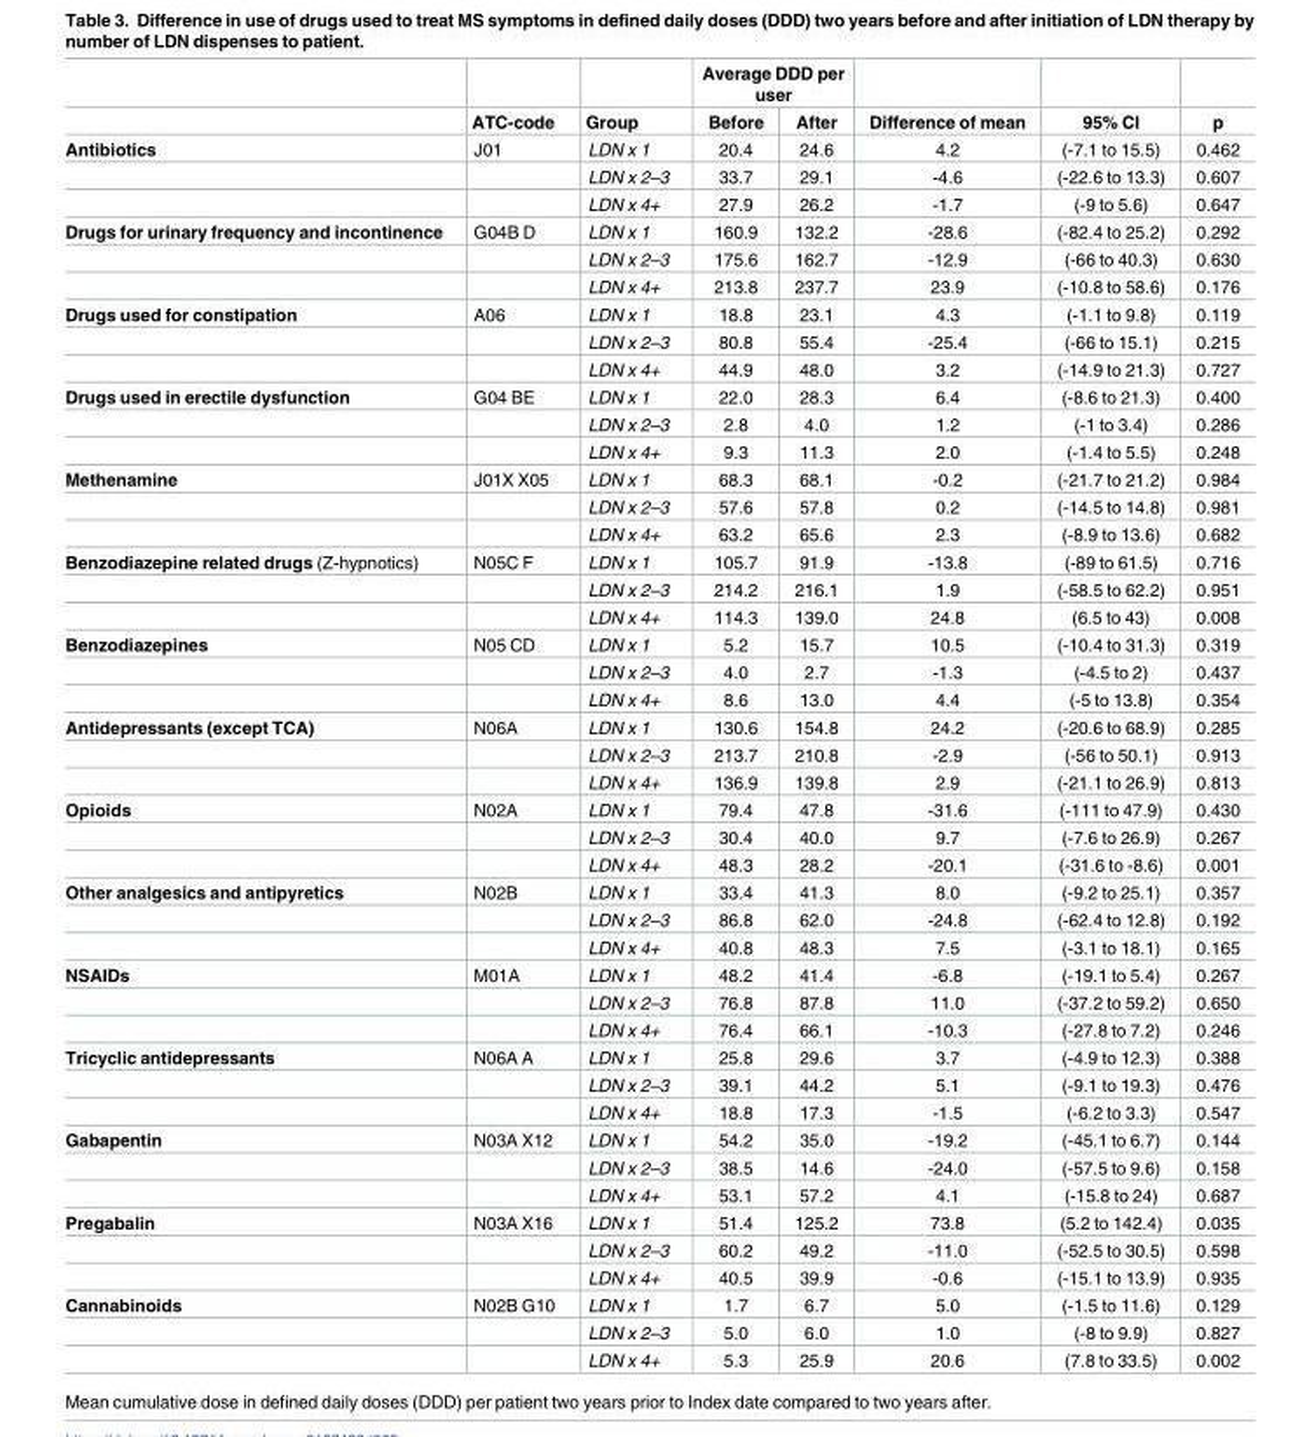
<table><thead><tr><td rowspan="2"></td><td rowspan="2">ATC-code</td><td rowspan="2">Group</td><td colspan="2">Average DDD per user</td><td rowspan="2">Difference of mean</td><td rowspan="2">95% CI</td><td rowspan="2">p</td></tr><tr><td>Before</td><td>After</td></tr></thead><tbody><tr><td rowspan="3">Antibiotics</td><td>J01</td><td>LDN x 1</td><td>20.4</td><td>24.6</td><td>4.2</td><td>(-7.1 to 15.5)</td><td>0.462</td></tr><tr><td></td><td>LDN x 2–3</td><td>33.7</td><td>29.1</td><td>-4.6</td><td>(-22.6 to 13.3)</td><td>0.607</td></tr><tr><td></td><td>LDN x 4+</td><td>27.9</td><td>26.2</td><td>-1.7</td><td>(-9 to 5.6)</td><td>0.647</td></tr><tr><td rowspan="3">Drugs for urinary frequency and incontinence</td><td>G04B D</td><td>LDN x 1</td><td>160.9</td><td>132.2</td><td>-28.6</td><td>(-82.4 to 25.2)</td><td>0.292</td></tr><tr><td></td><td>LDN x 2–3</td><td>175.6</td><td>162.7</td><td>-12.9</td><td>(-66 to 40.3)</td><td>0.630</td></tr><tr><td></td><td>LDN x 4+</td><td>213.8</td><td>237.7</td><td>23.9</td><td>(-10.8 to 58.6)</td><td>0.176</td></tr><tr><td rowspan="3">Drugs used for constipation</td><td>A06</td><td>LDN x 1</td><td>18.8</td><td>23.1</td><td>4.3</td><td>(-1.1 to 9.8)</td><td>0.119</td></tr><tr><td></td><td>LDN x 2–3</td><td>80.8</td><td>55.4</td><td>-25.4</td><td>(-66 to 15.1)</td><td>0.215</td></tr><tr><td></td><td>LDN x 4+</td><td>44.9</td><td>48.0</td><td>3.2</td><td>(-14.9 to 21.3)</td><td>0.727</td></tr><tr><td rowspan="3">Drugs used in erectile dysfunction</td><td>G04 BE</td><td>LDN x 1</td><td>22.0</td><td>28.3</td><td>6.4</td><td>(-8.6 to 21.3)</td><td>0.400</td></tr><tr><td></td><td>LDN x 2–3</td><td>2.8</td><td>4.0</td><td>1.2</td><td>(-1 to 3.4)</td><td>0.286</td></tr><tr><td></td><td>LDN x 4+</td><td>9.3</td><td>11.3</td><td>2.0</td><td>(-1.4 to 5.5)</td><td>0.248</td></tr><tr><td rowspan="3">Methenamine</td><td>J01X X05</td><td>LDN x 1</td><td>68.3</td><td>68.1</td><td>-0.2</td><td>(-21.7 to 21.2)</td><td>0.984</td></tr><tr><td></td><td>LDN x 2–3</td><td>57.6</td><td>57.8</td><td>0.2</td><td>(-14.5 to 14.8)</td><td>0.981</td></tr><tr><td></td><td>LDN x 4+</td><td>63.2</td><td>65.6</td><td>2.3</td><td>(-8.9 to 13.6)</td><td>0.682</td></tr><tr><td rowspan="3">Benzodiazepine related drugs (Z-hypnotics)</td><td>N05C F</td><td>LDN x 1</td><td>105.7</td><td>91.9</td><td>-13.8</td><td>(-89 to 61.5)</td><td>0.716</td></tr><tr><td></td><td>LDN x 2–3</td><td>214.2</td><td>216.1</td><td>1.9</td><td>(-58.5 to 62.2)</td><td>0.951</td></tr><tr><td></td><td>LDN x 4+</td><td>114.3</td><td>139.0</td><td>24.8</td><td>(6.5 to 43)</td><td>0.008</td></tr><tr><td rowspan="3">Benzodiazepines</td><td>N05 CD</td><td>LDN x 1</td><td>5.2</td><td>15.7</td><td>10.5</td><td>(-10.4 to 31.3)</td><td>0.319</td></tr><tr><td></td><td>LDN x 2–3</td><td>4.0</td><td>2.7</td><td>-1.3</td><td>(-4.5 to 2)</td><td>0.437</td></tr><tr><td></td><td>LDN x 4+</td><td>8.6</td><td>13.0</td><td>4.4</td><td>(-5 to 13.8)</td><td>0.354</td></tr><tr><td rowspan="3">Antidepressants (except TCA)</td><td>N06A</td><td>LDN x 1</td><td>130.6</td><td>154.8</td><td>24.2</td><td>(-20.6 to 68.9)</td><td>0.285</td></tr><tr><td></td><td>LDN x 2–3</td><td>213.7</td><td>210.8</td><td>-2.9</td><td>(-56 to 50.1)</td><td>0.913</td></tr><tr><td></td><td>LDN x 4+</td><td>136.9</td><td>139.8</td><td>2.9</td><td>(-21.1 to 26.9)</td><td>0.813</td></tr><tr><td rowspan="3">Opioids</td><td>N02A</td><td>LDN x 1</td><td>79.4</td><td>47.8</td><td>-31.6</td><td>(-111 to 47.9)</td><td>0.430</td></tr><tr><td></td><td>LDN x 2–3</td><td>30.4</td><td>40.0</td><td>9.7</td><td>(-7.6 to 26.9)</td><td>0.267</td></tr><tr><td></td><td>LDN x 4+</td><td>48.3</td><td>28.2</td><td>-20.1</td><td>(-31.6 to -8.6)</td><td>0.001</td></tr><tr><td rowspan="3">Other analgesics and antipyretics</td><td>N02B</td><td>LDN x 1</td><td>33.4</td><td>41.3</td><td>8.0</td><td>(-9.2 to 25.1)</td><td>0.357</td></tr><tr><td></td><td>LDN x 2–3</td><td>86.8</td><td>62.0</td><td>-24.8</td><td>(-62.4 to 12.8)</td><td>0.192</td></tr><tr><td></td><td>LDN x 4+</td><td>40.8</td><td>48.3</td><td>7.5</td><td>(-3.1 to 18.1)</td><td>0.165</td></tr><tr><td rowspan="3">NSAIDs</td><td>M01A</td><td>LDN x 1</td><td>48.2</td><td>41.4</td><td>-6.8</td><td>(-19.1 to 5.4)</td><td>0.267</td></tr><tr><td></td><td>LDN x 2–3</td><td>76.8</td><td>87.8</td><td>11.0</td><td>(-37.2 to 59.2)</td><td>0.650</td></tr><tr><td></td><td>LDN x 4+</td><td>76.4</td><td>66.1</td><td>-10.3</td><td>(-27.8 to 7.2)</td><td>0.246</td></tr><tr><td rowspan="3">Tricyclic antidepressants</td><td>N06A A</td><td>LDN x 1</td><td>25.8</td><td>29.6</td><td>3.7</td><td>(-4.9 to 12.3)</td><td>0.388</td></tr><tr><td></td><td>LDN x 2–3</td><td>39.1</td><td>44.2</td><td>5.1</td><td>(-9.1 to 19.3)</td><td>0.476</td></tr><tr><td></td><td>LDN x 4+</td><td>18.8</td><td>17.3</td><td>-1.5</td><td>(-6.2 to 3.3)</td><td>0.547</td></tr><tr><td rowspan="3">Gabapentin</td><td>N03A X12</td><td>LDN x 1</td><td>54.2</td><td>35.0</td><td>-19.2</td><td>(-45.1 to 6.7)</td><td>0.144</td></tr><tr><td></td><td>LDN x 2–3</td><td>38.5</td><td>14.6</td><td>-24.0</td><td>(-57.5 to 9.6)</td><td>0.158</td></tr><tr><td></td><td>LDN x 4+</td><td>53.1</td><td>57.2</td><td>4.1</td><td>(-15.8 to 24)</td><td>0.687</td></tr><tr><td rowspan="3">Pregabalin</td><td>N03A X16</td><td>LDN x 1</td><td>51.4</td><td>125.2</td><td>73.8</td><td>(5.2 to 142.4)</td><td>0.035</td></tr><tr><td></td><td>LDN x 2–3</td><td>60.2</td><td>49.2</td><td>-11.0</td><td>(-52.5 to 30.5)</td><td>0.598</td></tr><tr><td></td><td>LDN x 4+</td><td>40.5</td><td>39.9</td><td>-0.6</td><td>(-15.1 to 13.9)</td><td>0.935</td></tr><tr><td rowspan="3">Cannabinoids</td><td>N02B G10</td><td>LDN x 1</td><td>1.7</td><td>6.7</td><td>5.0</td><td>(-1.5 to 11.6)</td><td>0.129</td></tr><tr><td></td><td>LDN x 2–3</td><td>5.0</td><td>6.0</td><td>1.0</td><td>(-8 to 9.9)</td><td>0.827</td></tr><tr><td></td><td>LDN x 4+</td><td>5.3</td><td>25.9</td><td>20.6</td><td>(7.8 to 33.5)</td><td>0.002</td></tr></tbody></table>